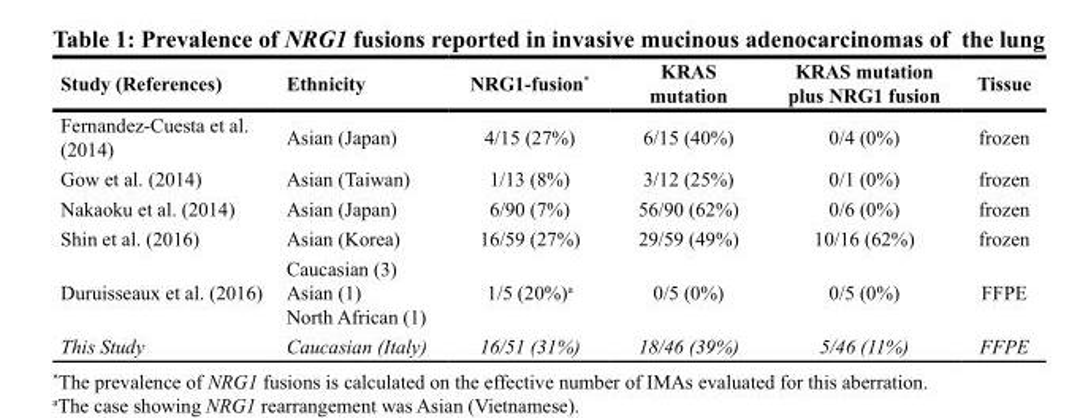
<table><thead><tr><td>Study (References)</td><td>Ethnicity</td><td>NRG1-fusion*</td><td>KRAS mutation</td><td>KRAS mutation plus NRG1 fusion</td><td>Tissue</td></tr></thead><tbody><tr><td>Fernandez-Cuesta et al. (2014)</td><td>Asian (Japan)</td><td>4/15 (27%)</td><td>6/15 (40%)</td><td>0/4 (0%)</td><td>frozen</td></tr><tr><td>Gow et al. (2014)</td><td>Asian (Taiwan)</td><td>1/13 (8%)</td><td>3/12 (25%)</td><td>0/1 (0%)</td><td>frozen</td></tr><tr><td>Nakaoku et al. (2014)</td><td>Asian (Japan)</td><td>6/90 (7%)</td><td>56/90 (62%)</td><td>0/6 (0%)</td><td>frozen</td></tr><tr><td>Shin et al. (2016)</td><td>Asian (Korea)</td><td>16/59 (27%)</td><td>29/59 (49%)</td><td>10/16 (62%)</td><td>frozen</td></tr><tr><td>Duruisseaux et al. (2016)</td><td>Caucasian (3) Asian (1) North African (1)</td><td>1/5 (20%)<sup>a</sup></td><td>0/5 (0%)</td><td>0/5 (0%)</td><td>FFPE</td></tr><tr><td>This Study</td><td>Caucasian (Italy)</td><td>16/51 (31%)</td><td>18/46 (39%)</td><td>5/46 (11%)</td><td>FFPE</td></tr></tbody></table>